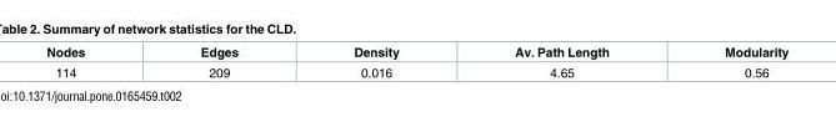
<table><thead><tr><td>Nodes</td><td>Edges</td><td>Density</td><td>Av. Path Length</td><td>Modularity</td></tr></thead><tbody><tr><td>114</td><td>209</td><td>0.016</td><td>4.65</td><td>0.56</td></tr></tbody></table>